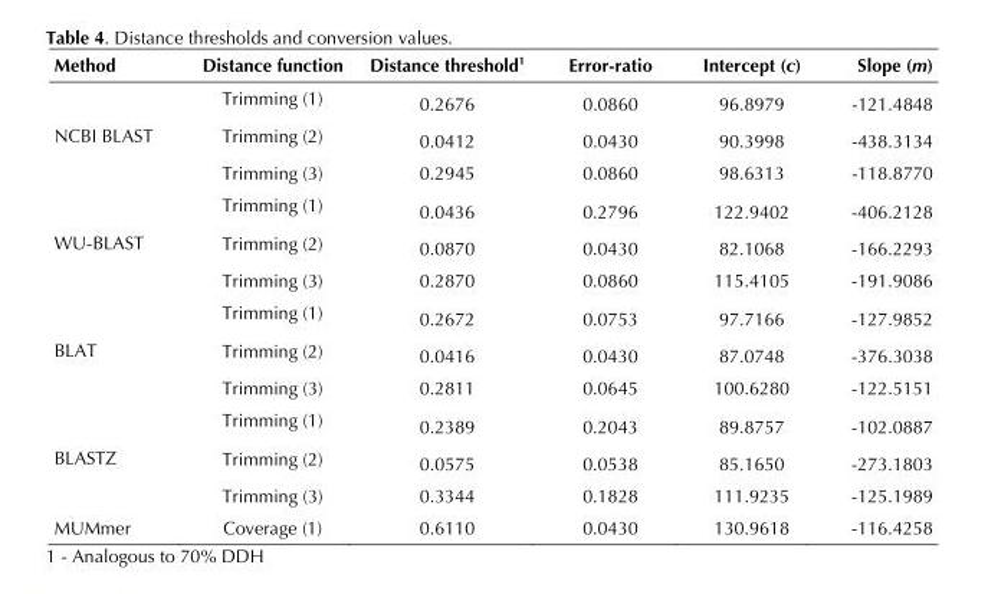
<table><thead><tr><td>Method</td><td>Distance function</td><td>Distance threshold<sup>1</sup></td><td>Error-ratio</td><td>Intercept (c)</td><td>Slope (m)</td></tr></thead><tbody><tr><td rowspan="3">NCBI BLAST</td><td>Trimming (1)</td><td>0.2676</td><td>0.0860</td><td>96.8979</td><td>-121.4848</td></tr><tr><td>Trimming (2)</td><td>0.0412</td><td>0.0430</td><td>90.3998</td><td>-438.3134</td></tr><tr><td>Trimming (3)</td><td>0.2945</td><td>0.0860</td><td>98.6313</td><td>-118.8770</td></tr><tr><td rowspan="3">WU-BLAST</td><td>Trimming (1)</td><td>0.0436</td><td>0.2796</td><td>122.9402</td><td>-406.2128</td></tr><tr><td>Trimming (2)</td><td>0.0870</td><td>0.0430</td><td>82.1068</td><td>-166.2293</td></tr><tr><td>Trimming (3)</td><td>0.2870</td><td>0.0860</td><td>115.4105</td><td>-191.9086</td></tr><tr><td rowspan="3">BLAT</td><td>Trimming (1)</td><td>0.2672</td><td>0.0753</td><td>97.7166</td><td>-127.9852</td></tr><tr><td>Trimming (2)</td><td>0.0416</td><td>0.0430</td><td>87.0748</td><td>-376.3038</td></tr><tr><td>Trimming (3)</td><td>0.2811</td><td>0.0645</td><td>100.6280</td><td>-122.5151</td></tr><tr><td rowspan="3">BLASTZ</td><td>Trimming (1)</td><td>0.2389</td><td>0.2043</td><td>89.8757</td><td>-102.0887</td></tr><tr><td>Trimming (2)</td><td>0.0575</td><td>0.0538</td><td>85.1650</td><td>-273.1803</td></tr><tr><td>Trimming (3)</td><td>0.3344</td><td>0.1828</td><td>111.9235</td><td>-125.1989</td></tr><tr><td>MUMmer</td><td>Coverage (1)</td><td>0.6110</td><td>0.0430</td><td>130.9618</td><td>-116.4258</td></tr></tbody></table>